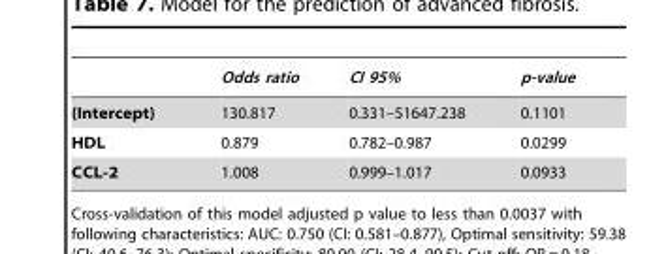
<table><thead><tr><td></td><td>Odds ratio</td><td>CI 95%</td><td>p-value</td></tr></thead><tbody><tr><td>(Intercept)</td><td>130.817</td><td>0.331–51647.238</td><td>0.1101</td></tr><tr><td>HDL</td><td>0.879</td><td>0.782–0.987</td><td>0.0299</td></tr><tr><td>CCL-2</td><td>1.008</td><td>0.999–1.017</td><td>0.0933</td></tr></tbody></table>